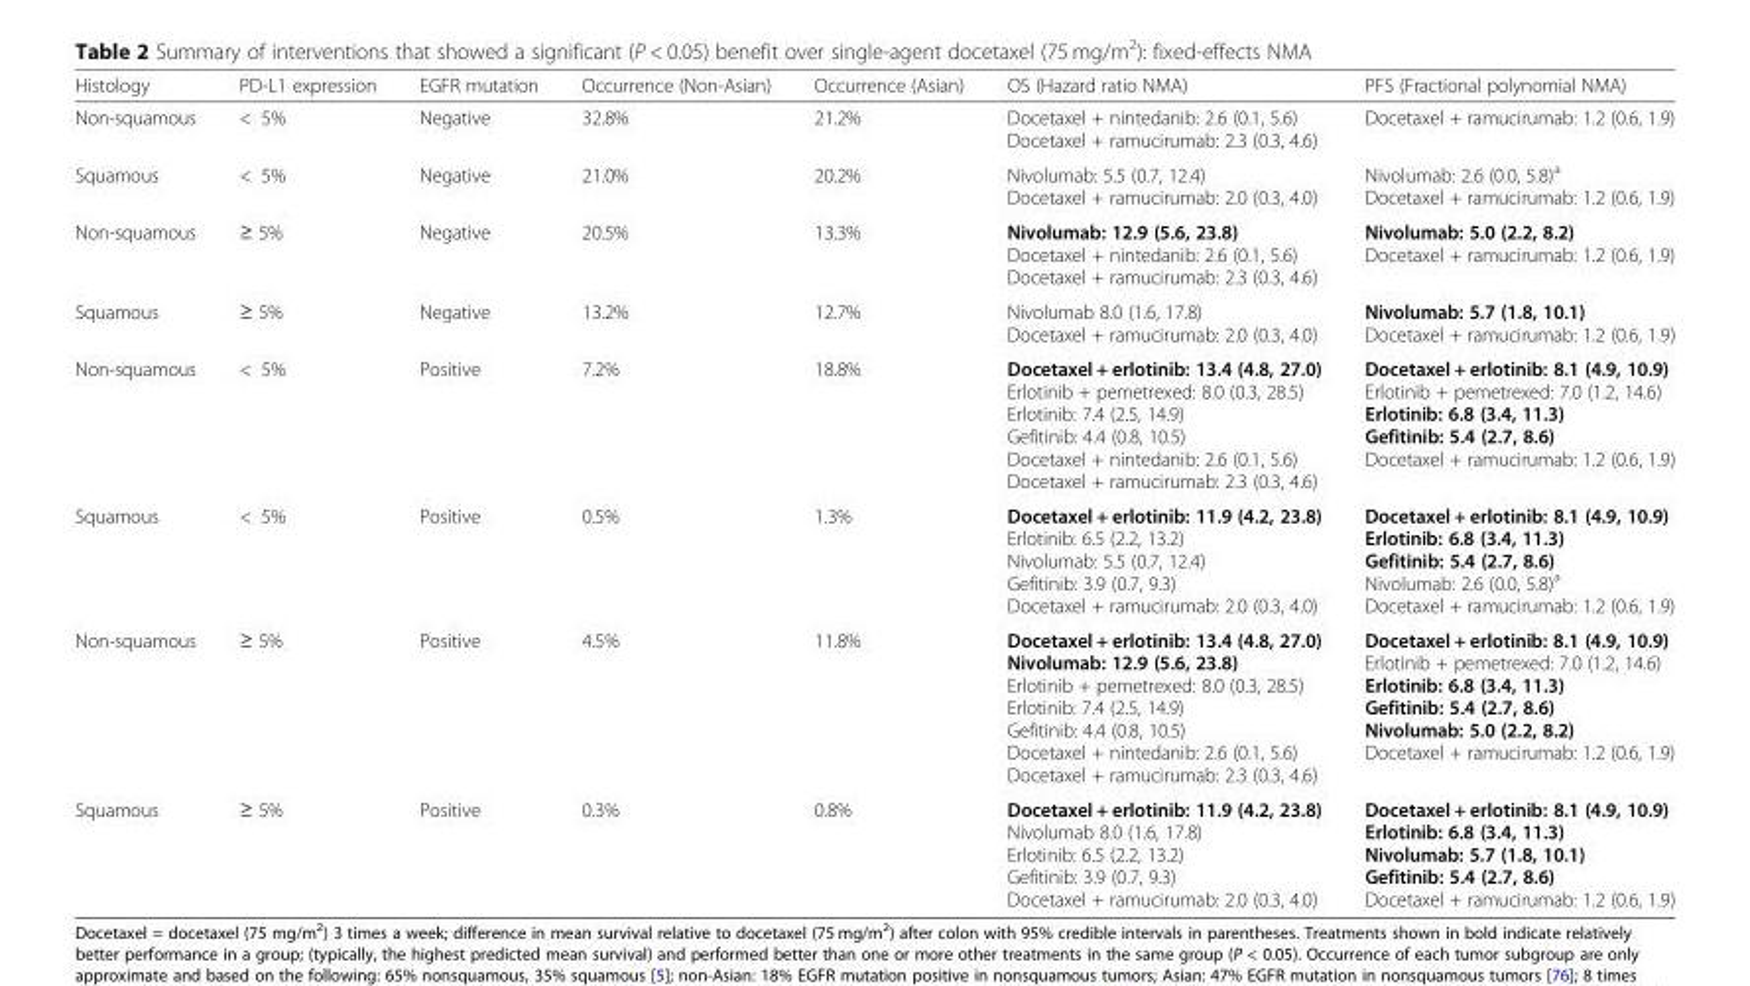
<table><thead><tr><td>Histology</td><td>PD-L1 expression</td><td>EGFR mutation</td><td>Occurrence (Non-Asian)</td><td>Occurrence (Asian)</td><td>OS (Hazard ratio NMA)</td><td>PFS (Fractional polynomial NMA)</td></tr></thead><tbody><tr><td>Non-squamous</td><td>&lt; 5%</td><td>Negative</td><td>32.8%</td><td>21.2%</td><td>Docetaxel + nintedanib: 2.6 (0.1, 5.6) Docetaxel + ramucirumab: 2.3 (0.3, 4.6)</td><td>Docetaxel + ramucirumab: 1.2 (0.6, 1.9)</td></tr><tr><td>Squamous</td><td>&lt; 5%</td><td>Negative</td><td>21.0%</td><td>20.2%</td><td>Nivolumab: 5.5 (0.7, 12.4) Docetaxel + ramucirumab: 2.0 (0.3, 4.0)</td><td>Nivolumab: 2.6 (0.0, 5.8)<sup>a</sup> Docetaxel + ramucirumab: 1.2 (0.6, 1.9)</td></tr><tr><td>Non-squamous</td><td>≥ 5%</td><td>Negative</td><td>20.5%</td><td>13.3%</td><td>Nivolumab: 12.9 (5.6, 23.8) Docetaxel + nintedanib: 2.6 (0.1, 5.6) Docetaxel + ramucirumab: 2.3 (0.3, 4.6)</td><td>Nivolumab: 5.0 (2.2, 8.2) Docetaxel + ramucirumab: 1.2 (0.6, 1.9)</td></tr><tr><td>Squamous</td><td>≥ 5%</td><td>Negative</td><td>13.2%</td><td>12.7%</td><td>Nivolumab 8.0 (1.6, 17.8) Docetaxel + ramucirumab: 2.0 (0.3, 4.0)</td><td>Nivolumab: 5.7 (1.8, 10.1) Docetaxel + ramucirumab: 1.2 (0.6, 1.9)</td></tr><tr><td>Non-squamous</td><td>&lt; 5%</td><td>Positive</td><td>7.2%</td><td>18.8%</td><td>Docetaxel + erlotinib: 13.4 (4.8, 27.0) Erlotinib + pemetrexed: 8.0 (0.3, 28.5) Erlotinib: 7.4 (2.5, 14.9) Gefitinib: 4.4 (0.8, 10.5) Docetaxel + nintedanib: 2.6 (0.1, 5.6) Docetaxel + ramucirumab: 2.3 (0.3, 4.6)</td><td>Docetaxel + erlotinib: 8.1 (4.9, 10.9) Erlotinib + pemetrexed: 7.0 (1.2, 14.6) Erlotinib: 6.8 (3.4, 11.3) Gefitinib: 5.4 (2.7, 8.6) Docetaxel + ramucirumab: 1.2 (0.6, 1.9)</td></tr><tr><td>Squamous</td><td>&lt; 5%</td><td>Positive</td><td>0.5%</td><td>1.3%</td><td>Docetaxel + erlotinib: 11.9 (4.2, 23.8) Erlotinib: 6.5 (2.2, 13.2) Nivolumab: 5.5 (0.7, 12.4) Gefitinib: 3.9 (0.7, 9.3) Docetaxel + ramucirumab: 2.0 (0.3, 4.0)</td><td>Docetaxel + erlotinib: 8.1 (4.9, 10.9) Erlotinib: 6.8 (3.4, 11.3) Gefitinib: 5.4 (2.7, 8.6) Nivolumab: 2.6 (0.0, 5.8)<sup>a</sup> Docetaxel + ramucirumab: 1.2 (0.6, 1.9)</td></tr><tr><td>Non-squamous</td><td>≥ 5%</td><td>Positive</td><td>4.5%</td><td>11.8%</td><td>Docetaxel + erlotinib: 13.4 (4.8, 27.0) Nivolumab: 12.9 (5.6, 23.8) Erlotinib + pemetrexed: 8.0 (0.3, 28.5) Erlotinib: 7.4 (2.5, 14.9) Gefitinib: 4.4 (0.8, 10.5) Docetaxel + nintedanib: 2.6 (0.1, 5.6) Docetaxel + ramucirumab: 2.3 (0.3, 4.6)</td><td>Docetaxel + erlotinib: 8.1 (4.9, 10.9) Erlotinib + pemetrexed: 7.0 (1.2, 14.6) Erlotinib: 6.8 (3.4, 11.3) Gefitinib: 5.4 (2.7, 8.6) Nivolumab: 5.0 (2.2, 8.2) Docetaxel + ramucirumab: 1.2 (0.6, 1.9)</td></tr><tr><td>Squamous</td><td>≥ 5%</td><td>Positive</td><td>0.3%</td><td>0.8%</td><td>Docetaxel + erlotinib: 11.9 (4.2, 23.8) Nivolumab 8.0 (1.6, 17.8) Erlotinib: 6.5 (2.2, 13.2) Gefitinib: 3.9 (0.7, 9.3) Docetaxel + ramucirumab: 2.0 (0.3, 4.0)</td><td>Docetaxel + erlotinib: 8.1 (4.9, 10.9) Erlotinib: 6.8 (3.4, 11.3) Nivolumab: 5.7 (1.8, 10.1) Gefitinib: 5.4 (2.7, 8.6) Docetaxel + ramucirumab: 1.2 (0.6, 1.9)</td></tr></tbody></table>